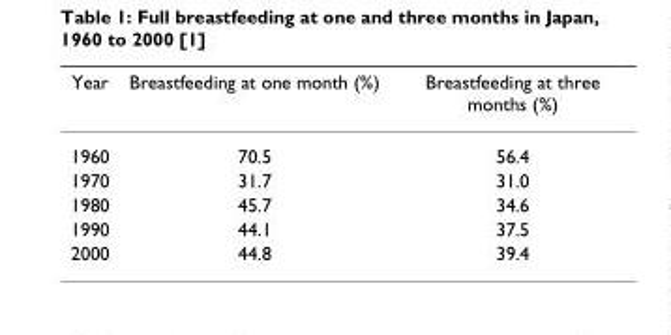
<table><thead><tr><td>Year</td><td>Breastfeeding at one month (%)</td><td>Breastfeeding at three months (%)</td></tr></thead><tbody><tr><td>1960</td><td>70.5</td><td>56.4</td></tr><tr><td>1970</td><td>31.7</td><td>31.0</td></tr><tr><td>1980</td><td>45.7</td><td>34.6</td></tr><tr><td>1990</td><td>44.1</td><td>37.5</td></tr><tr><td>2000</td><td>44.8</td><td>39.4</td></tr></tbody></table>